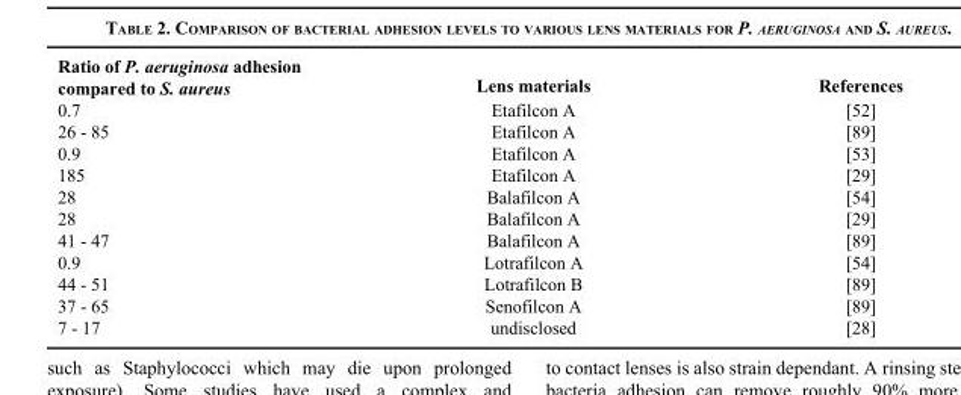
<table><thead><tr><td>Ratio of P. aeruginosa adhesion compared to S. aureus</td><td>Lens materials</td><td>References</td></tr></thead><tbody><tr><td>0.7</td><td>Etafilcon A</td><td>[52]</td></tr><tr><td>26 - 85</td><td>Etafilcon A</td><td>[89]</td></tr><tr><td>0.9</td><td>Etafilcon A</td><td>[53]</td></tr><tr><td>185</td><td>Etafilcon A</td><td>[29]</td></tr><tr><td>28</td><td>Balafilcon A</td><td>[54]</td></tr><tr><td>28</td><td>Balafilcon A</td><td>[29]</td></tr><tr><td>41 - 47</td><td>Balafilcon A</td><td>[89]</td></tr><tr><td>0.9</td><td>Lotrafilcon A</td><td>[54]</td></tr><tr><td>44 - 51</td><td>Lotrafilcon B</td><td>[89]</td></tr><tr><td>37 - 65</td><td>Senofilcon A</td><td>[89]</td></tr><tr><td>7 - 17</td><td>undisclosed</td><td>[28]</td></tr></tbody></table>